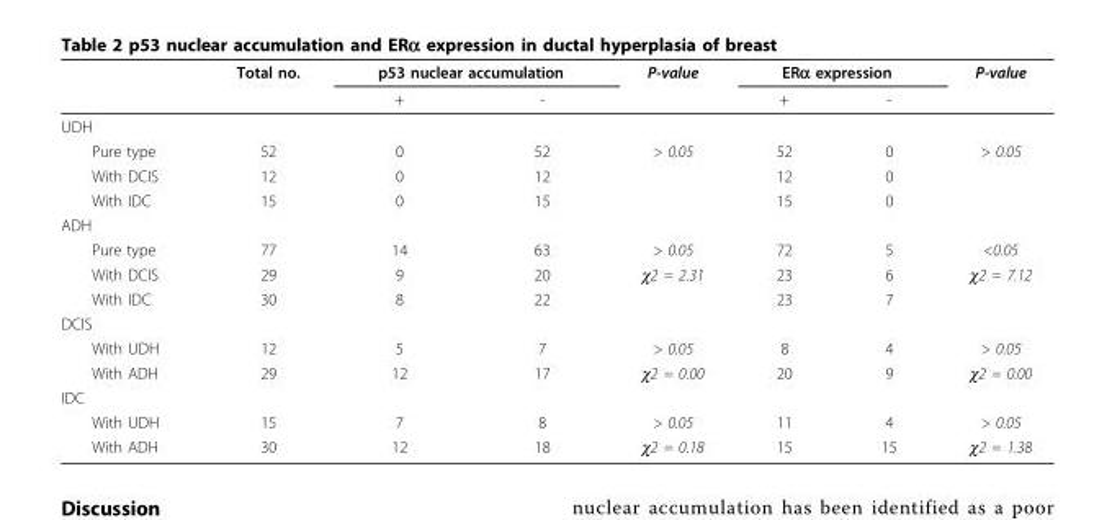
<table><thead><tr><td rowspan="2"></td><td rowspan="2">Total no.</td><td colspan="2">p53 nuclear accumulation</td><td rowspan="2">P-value</td><td colspan="2">ERα expression</td><td rowspan="2">P-value</td></tr><tr><td>+</td><td>-</td><td>+</td><td>-</td></tr></thead><tbody><tr><td colspan="8">UDH</td></tr><tr><td>Pure type</td><td>52</td><td>0</td><td>52</td><td>&gt; 0.05</td><td>52</td><td>0</td><td>&gt; 0.05</td></tr><tr><td>With DCIS</td><td>12</td><td>0</td><td>12</td><td></td><td>12</td><td>0</td><td></td></tr><tr><td>With IDC</td><td>15</td><td>0</td><td>15</td><td></td><td>15</td><td>0</td><td></td></tr><tr><td colspan="8">ADH</td></tr><tr><td>Pure type</td><td>77</td><td>14</td><td>63</td><td>&gt; 0.05</td><td>72</td><td>5</td><td>&lt;0.05</td></tr><tr><td>With DCIS</td><td>29</td><td>9</td><td>20</td><td>χ2 = 2.31</td><td>23</td><td>6</td><td>χ2 = 7.12</td></tr><tr><td>With IDC</td><td>30</td><td>8</td><td>22</td><td></td><td>23</td><td>7</td><td></td></tr><tr><td colspan="8">DCIS</td></tr><tr><td>With UDH</td><td>12</td><td>5</td><td>7</td><td>&gt; 0.05</td><td>8</td><td>4</td><td>&gt; 0.05</td></tr><tr><td>With ADH</td><td>29</td><td>12</td><td>17</td><td>χ2 = 0.00</td><td>20</td><td>9</td><td>χ2 = 0.00</td></tr><tr><td colspan="8">IDC</td></tr><tr><td>With UDH</td><td>15</td><td>7</td><td>8</td><td>&gt; 0.05</td><td>11</td><td>4</td><td>&gt; 0.05</td></tr><tr><td>With ADH</td><td>30</td><td>12</td><td>18</td><td>χ2 = 0.18</td><td>15</td><td>15</td><td>χ2 = 1.38</td></tr></tbody></table>